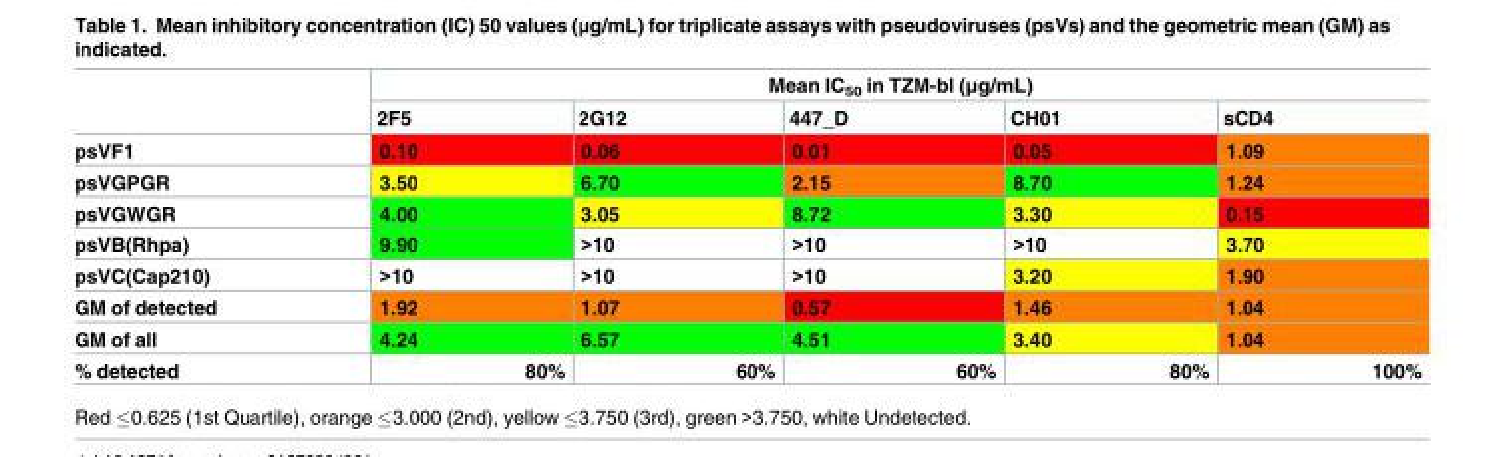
<table><thead><tr><td rowspan="2"></td><td colspan="5">Mean IC<sub>50</sub> in TZM-bl (μg/mL)</td></tr><tr><td>2F5</td><td>2G12</td><td>447_D</td><td>CH01</td><td>sCD4</td></tr></thead><tbody><tr><td>psVF1</td><td>0.10</td><td>0.06</td><td>0.01</td><td>0.05</td><td>1.09</td></tr><tr><td>psVGPGR</td><td>3.50</td><td>6.70</td><td>2.15</td><td>8.70</td><td>1.24</td></tr><tr><td>psVGWGR</td><td>4.00</td><td>3.05</td><td>8.72</td><td>3.30</td><td>0.15</td></tr><tr><td>psVB(Rhpa)</td><td>9.90</td><td>&gt;10</td><td>&gt;10</td><td>&gt;10</td><td>3.70</td></tr><tr><td>psVC(Cap210)</td><td>&gt;10</td><td>&gt;10</td><td>&gt;10</td><td>3.20</td><td>1.90</td></tr><tr><td>GM of detected</td><td>1.92</td><td>1.07</td><td>0.57</td><td>1.46</td><td>1.04</td></tr><tr><td>GM of all</td><td>4.24</td><td>6.57</td><td>4.51</td><td>3.40</td><td>1.04</td></tr><tr><td>% detected</td><td>80%</td><td>60%</td><td>60%</td><td>80%</td><td>100%</td></tr></tbody></table>